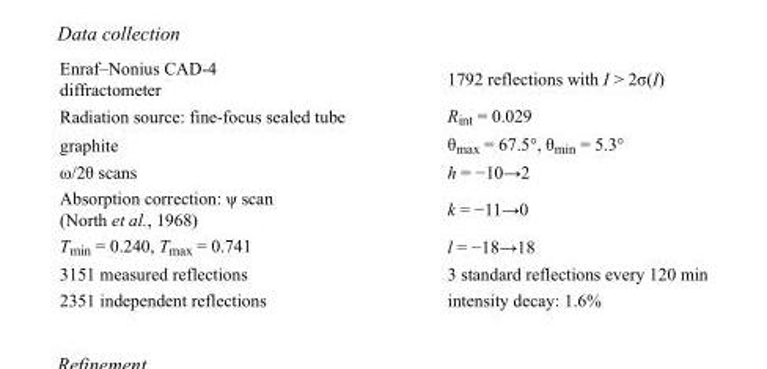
<table><tbody><tr><td>Enraf–Nonius CAD-4 diffractometer</td><td>1792 reflections with I &gt; 2σ(I)</td></tr><tr><td>Radiation source: fine-focus sealed tube</td><td>R<sub>int</sub> = 0.029</td></tr><tr><td>graphite</td><td>θ<sub>max</sub> = 67.5°, θ<sub>min</sub> = 5.3°</td></tr><tr><td>ω/2θ scans</td><td>h = −10→2</td></tr><tr><td>Absorption correction: ψ scan (North et al., 1968)</td><td>k = −11→0</td></tr><tr><td>T<sub>min</sub> = 0.240, T<sub>max</sub> = 0.741</td><td>l = −18→18</td></tr><tr><td>3151 measured reflections</td><td>3 standard reflections every 120 min</td></tr><tr><td>2351 independent reflections</td><td>intensity decay: 1.6%</td></tr></tbody></table>